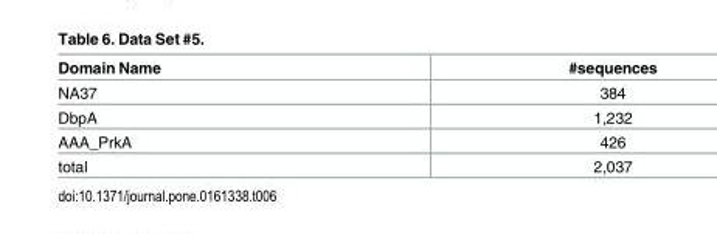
<table><thead><tr><td>Domain Name</td><td>#sequences</td></tr></thead><tbody><tr><td>NA37</td><td>384</td></tr><tr><td>DbpA</td><td>1,232</td></tr><tr><td>AAA_PrkA</td><td>426</td></tr><tr><td>total</td><td>2,037</td></tr></tbody></table>